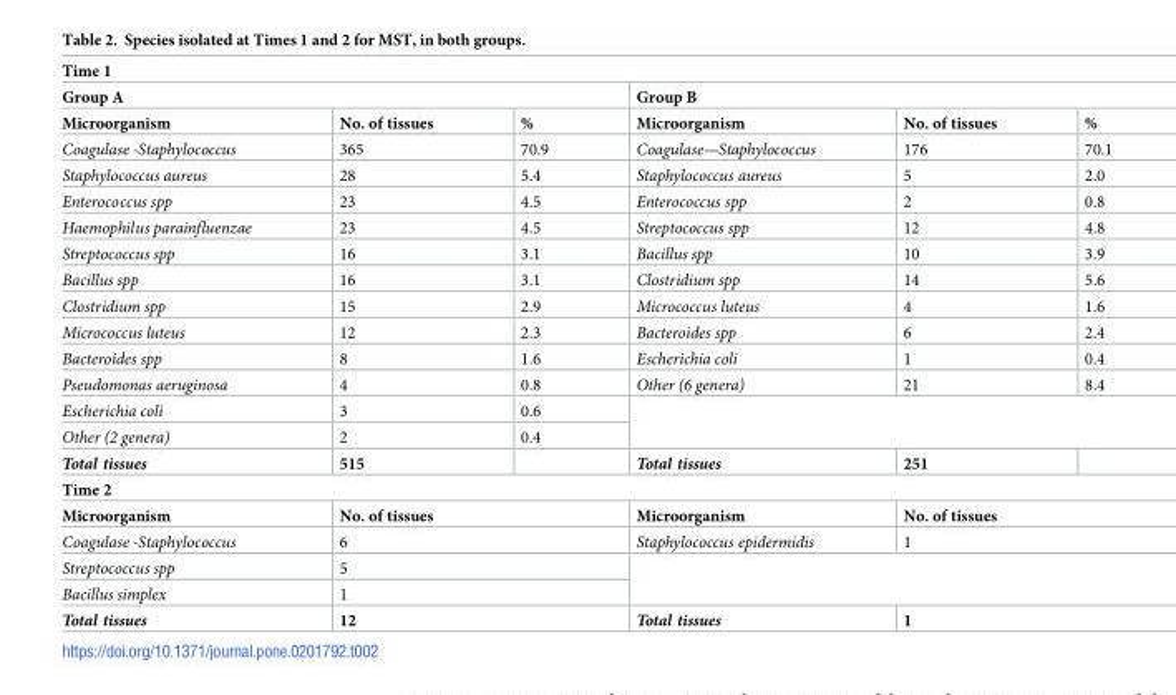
<table><tbody><tr><td colspan="6">Time 1</td></tr><tr><td colspan="3">Group A</td><td colspan="3">Group B</td></tr><tr><td>Microorganism</td><td>No. of tissues</td><td>%</td><td>Microorganism</td><td>No. of tissues</td><td>%</td></tr><tr><td>Coagulase -Staphylococcus</td><td>365</td><td>70.9</td><td>Coagulase—Staphylococcus</td><td>176</td><td>70.1</td></tr><tr><td>Staphylococcus aureus</td><td>28</td><td>5.4</td><td>Staphylococcus aureus</td><td>5</td><td>2.0</td></tr><tr><td>Enterococcus spp</td><td>23</td><td>4.5</td><td>Enterococcus spp</td><td>2</td><td>0.8</td></tr><tr><td>Haemophilus parainfluenzae</td><td>23</td><td>4.5</td><td>Streptococcus spp</td><td>12</td><td>4.8</td></tr><tr><td>Streptococcus spp</td><td>16</td><td>3.1</td><td>Bacillus spp</td><td>10</td><td>3.9</td></tr><tr><td>Bacillus spp</td><td>16</td><td>3.1</td><td>Clostridium spp</td><td>14</td><td>5.6</td></tr><tr><td>Clostridium spp</td><td>15</td><td>2.9</td><td>Micrococcus luteus</td><td>4</td><td>1.6</td></tr><tr><td>Micrococcus luteus</td><td>12</td><td>2.3</td><td>Bacteroides spp</td><td>6</td><td>2.4</td></tr><tr><td>Bacteroides spp</td><td>8</td><td>1.6</td><td>Escherichia coli</td><td>1</td><td>0.4</td></tr><tr><td>Pseudomonas aeruginosa</td><td>4</td><td>0.8</td><td>Other (6 genera)</td><td>21</td><td>8.4</td></tr><tr><td>Escherichia coli</td><td>3</td><td>0.6</td><td rowspan="2" colspan="3"></td></tr><tr><td>Other (2 genera)</td><td>2</td><td>0.4</td></tr><tr><td>Total tissues</td><td>515</td><td></td><td>Total tissues</td><td>251</td><td></td></tr><tr><td colspan="6">Time 2</td></tr><tr><td>Microorganism</td><td colspan="2">No. of tissues</td><td>Microorganism</td><td colspan="2">No. of tissues</td></tr><tr><td>Coagulase -Staphylococcus</td><td colspan="2">6</td><td>Staphylococcus epidermidis</td><td colspan="2">1</td></tr><tr><td>Streptococcus spp</td><td colspan="2">5</td><td rowspan="2" colspan="3"></td></tr><tr><td>Bacillus simplex</td><td colspan="2">1</td></tr><tr><td>Total tissues</td><td colspan="2">12</td><td>Total tissues</td><td colspan="2">1</td></tr></tbody></table>